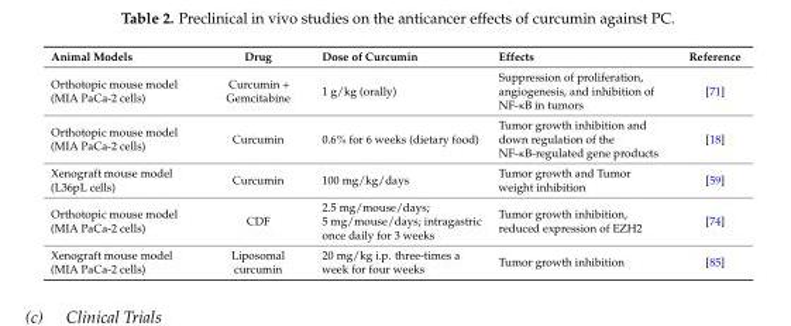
<table><thead><tr><td>Animal Models</td><td>Drug</td><td>Dose of Curcumin</td><td>Effects</td><td>Reference</td></tr></thead><tbody><tr><td>Orthotopic mouse model (MIA PaCa-2 cells)</td><td>Curcumin + Gemcitabine</td><td>1 g/kg (orally)</td><td>Suppression of proliferation, angiogenesis, and inhibition of NF-κB in tumors</td><td>[71]</td></tr><tr><td>Orthotopic mouse model (MIA PaCa-2 cells)</td><td>Curcumin</td><td>0.6% for 6 weeks (dietary food)</td><td>Tumor growth inhibition and down regulation of the NF-κB-regulated gene products</td><td>[18]</td></tr><tr><td>Xenograft mouse model (L36pL cells)</td><td>Curcumin</td><td>100 mg/kg/days</td><td>Tumor growth and Tumor weight inhibition</td><td>[59]</td></tr><tr><td>Orthotopic mouse model (MIA PaCa-2 cells)</td><td>CDF</td><td>2.5 mg/mouse/days; 5 mg/mouse/days; intragastric once daily for 3 weeks</td><td>Tumor growth inhibition, reduced expression of EZH2</td><td>[74]</td></tr><tr><td>Xenograft mouse model (MIA PaCa-2 cells)</td><td>Liposomal curcumin</td><td>20 mg/kg i.p. three-times a week for four weeks</td><td>Tumor growth inhibition</td><td>[85]</td></tr></tbody></table>